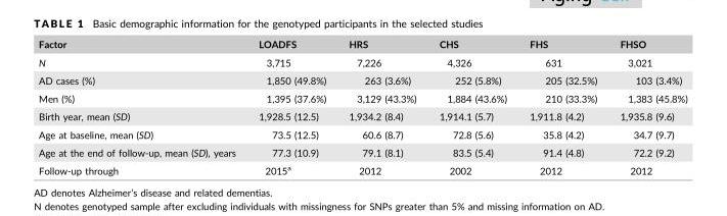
<table><thead><tr><td>Factor</td><td>LOADFS</td><td>HRS</td><td>CHS</td><td>FHS</td><td>FHSO</td></tr></thead><tbody><tr><td>N</td><td>3,715</td><td>7,226</td><td>4,326</td><td>631</td><td>3,021</td></tr><tr><td>AD cases (%)</td><td>1,850 (49.8%)</td><td>263 (3.6%)</td><td>252 (5.8%)</td><td>205 (32.5%)</td><td>103 (3.4%)</td></tr><tr><td>Men (%)</td><td>1,395 (37.6%)</td><td>3,129 (43.3%)</td><td>1,884 (43.6%)</td><td>210 (33.3%)</td><td>1,383 (45.8%)</td></tr><tr><td>Birth year, mean (SD)</td><td>1,928.5 (12.5)</td><td>1,934.2 (8.4)</td><td>1,914.1 (5.7)</td><td>1,911.8 (4.2)</td><td>1,935.8 (9.6)</td></tr><tr><td>Age at baseline, mean (SD)</td><td>73.5 (12.5)</td><td>60.6 (8.7)</td><td>72.8 (5.6)</td><td>35.8 (4.2)</td><td>34.7 (9.7)</td></tr><tr><td>Age at the end of follow-up, mean (SD), years</td><td>77.3 (10.9)</td><td>79.1 (8.1)</td><td>83.5 (5.4)</td><td>91.4 (4.8)</td><td>72.2 (9.2)</td></tr><tr><td>Follow-up through</td><td>2015<sup>a</sup></td><td>2012</td><td>2002</td><td>2012</td><td>2012</td></tr></tbody></table>